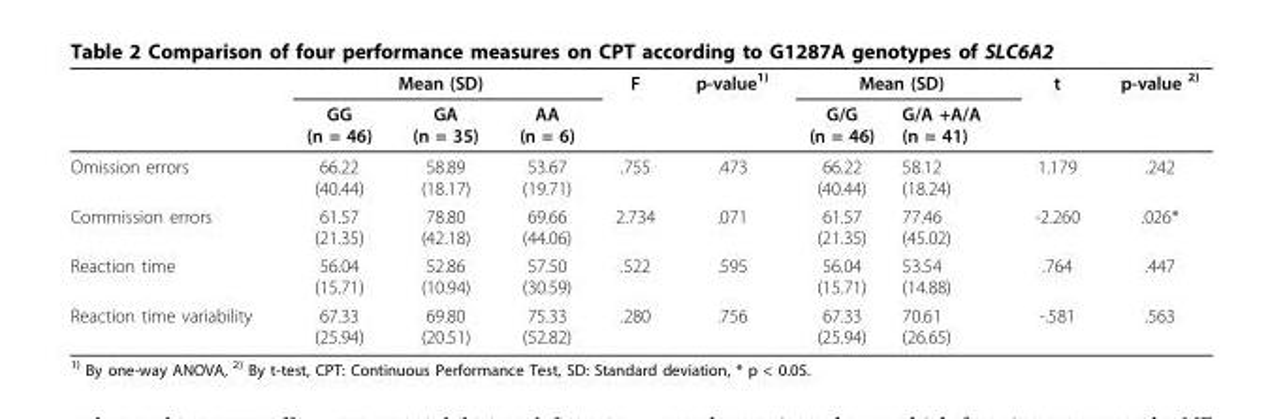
<table><thead><tr><td rowspan="2"></td><td colspan="3">Mean (SD)</td><td rowspan="2">F</td><td rowspan="2">p-value<sup>1)</sup></td><td colspan="2">Mean (SD)</td><td rowspan="2">t</td><td rowspan="2">p-value <sup>2)</sup></td></tr><tr><td>GG (n = 46)</td><td>GA (n = 35)</td><td>AA (n = 6)</td><td>G/G (n = 46)</td><td>G/A +A/A (n = 41)</td></tr></thead><tbody><tr><td>Omission errors</td><td>66.22 (40.44)</td><td>58.89 (18.17)</td><td>53.67 (19.71)</td><td>.755</td><td>.473</td><td>66.22 (40.44)</td><td>58.12 (18.24)</td><td>1.179</td><td>.242</td></tr><tr><td>Commission errors</td><td>61.57 (21.35)</td><td>78.80 (42.18)</td><td>69.66 (44.06)</td><td>2.734</td><td>.071</td><td>61.57 (21.35)</td><td>77.46 (45.02)</td><td>-2.260</td><td>.026*</td></tr><tr><td>Reaction time</td><td>56.04 (15.71)</td><td>52.86 (10.94)</td><td>57.50 (30.59)</td><td>.522</td><td>.595</td><td>56.04 (15.71)</td><td>53.54 (14.88)</td><td>.764</td><td>.447</td></tr><tr><td>Reaction time variability</td><td>67.33 (25.94)</td><td>69.80 (20.51)</td><td>75.33 (52.82)</td><td>.280</td><td>.756</td><td>67.33 (25.94)</td><td>70.61 (26.65)</td><td>-.581</td><td>.563</td></tr></tbody></table>